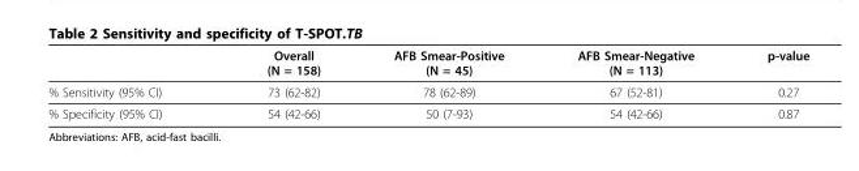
<table><thead><tr><td></td><td>Overall (N = 158)</td><td>AFB Smear-Positive (N = 45)</td><td>AFB Smear-Negative (N = 113)</td><td>p-value</td></tr></thead><tbody><tr><td>% Sensitivity (95% CI)</td><td>73 (62-82)</td><td>78 (62-89)</td><td>67 (52-81)</td><td>0.27</td></tr><tr><td>% Specificity (95% CI)</td><td>54 (42-66)</td><td>50 (7-93)</td><td>54 (42-66)</td><td>0.87</td></tr></tbody></table>